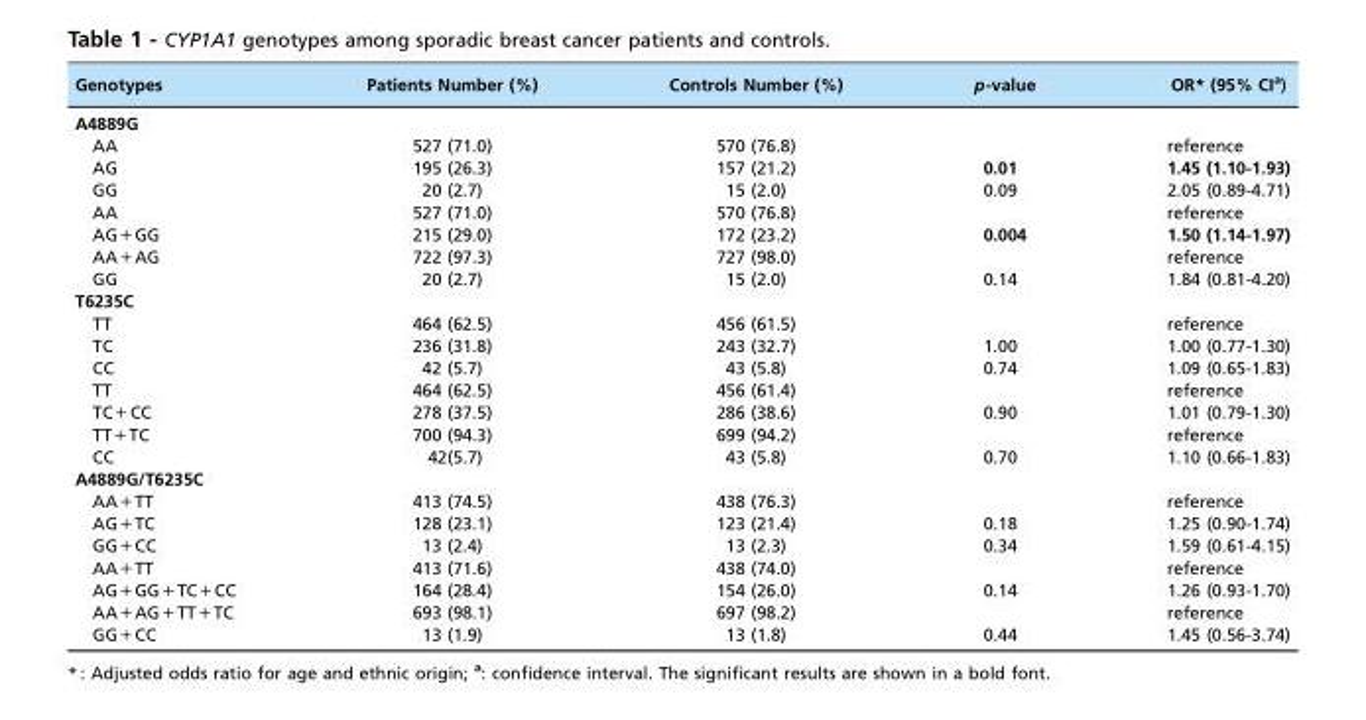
<table><thead><tr><td>Genotypes</td><td>Patients Number (%)</td><td>Controls Number (%)</td><td>p-value</td><td>OR* (95% CI<sup>a</sup>)</td></tr></thead><tbody><tr><td colspan="5">A4889G</td></tr><tr><td>AA</td><td>527 (71.0)</td><td>570 (76.8)</td><td></td><td>reference</td></tr><tr><td>AG</td><td>195 (26.3)</td><td>157 (21.2)</td><td>0.01</td><td>1.45 (1.10-1.93)</td></tr><tr><td>GG</td><td>20 (2.7)</td><td>15 (2.0)</td><td>0.09</td><td>2.05 (0.89-4.71)</td></tr><tr><td>AA</td><td>527 (71.0)</td><td>570 (76.8)</td><td></td><td>reference</td></tr><tr><td>AG+GG</td><td>215 (29.0)</td><td>172 (23.2)</td><td>0.004</td><td>1.50 (1.14-1.97)</td></tr><tr><td>AA+AG</td><td>722 (97.3)</td><td>727 (98.0)</td><td></td><td>reference</td></tr><tr><td>GG</td><td>20 (2.7)</td><td>15 (2.0)</td><td>0.14</td><td>1.84 (0.81-4.20)</td></tr><tr><td colspan="5">T6235C</td></tr><tr><td>TT</td><td>464 (62.5)</td><td>456 (61.5)</td><td></td><td>reference</td></tr><tr><td>TC</td><td>236 (31.8)</td><td>243 (32.7)</td><td>1.00</td><td>1.00 (0.77-1.30)</td></tr><tr><td>CC</td><td>42 (5.7)</td><td>43 (5.8)</td><td>0.74</td><td>1.09 (0.65-1.83)</td></tr><tr><td>TT</td><td>464 (62.5)</td><td>456 (61.4)</td><td></td><td>reference</td></tr><tr><td>TC+CC</td><td>278 (37.5)</td><td>286 (38.6)</td><td>0.90</td><td>1.01 (0.79-1.30)</td></tr><tr><td>TT+TC</td><td>700 (94.3)</td><td>699 (94.2)</td><td></td><td>reference</td></tr><tr><td>CC</td><td>42(5.7)</td><td>43 (5.8)</td><td>0.70</td><td>1.10 (0.66-1.83)</td></tr><tr><td colspan="5">A4889G/T6235C</td></tr><tr><td>AA+TT</td><td>413 (74.5)</td><td>438 (76.3)</td><td></td><td>reference</td></tr><tr><td>AG+TC</td><td>128 (23.1)</td><td>123 (21.4)</td><td>0.18</td><td>1.25 (0.90-1.74)</td></tr><tr><td>GG+CC</td><td>13 (2.4)</td><td>13 (2.3)</td><td>0.34</td><td>1.59 (0.61-4.15)</td></tr><tr><td>AA+TT</td><td>413 (71.6)</td><td>438 (74.0)</td><td></td><td>reference</td></tr><tr><td>AG+GG+TC+CC</td><td>164 (28.4)</td><td>154 (26.0)</td><td>0.14</td><td>1.26 (0.93-1.70)</td></tr><tr><td>AA+AG+TT+TC</td><td>693 (98.1)</td><td>697 (98.2)</td><td></td><td>reference</td></tr><tr><td>GG+CC</td><td>13 (1.9)</td><td>13 (1.8)</td><td>0.44</td><td>1.45 (0.56-3.74)</td></tr></tbody></table>